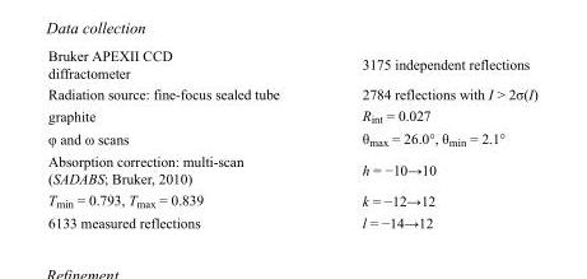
<table><tbody><tr><td>Bruker APEXII CCD diffractometer</td><td>3175 independent reflections</td></tr><tr><td>Radiation source: fine-focus sealed tube</td><td>2784 reflections with I &gt; 2σ(I)</td></tr><tr><td>graphite</td><td>R<sub>int</sub> = 0.027</td></tr><tr><td>φ and ω scans</td><td>θ<sub>max</sub> = 26.0°, θ<sub>min</sub> = 2.1°</td></tr><tr><td>Absorption correction: multi-scan (SADABS; Bruker, 2010)</td><td>h = −10→10</td></tr><tr><td>T<sub>min</sub> = 0.793, T<sub>max</sub> = 0.839</td><td>k = −12→12</td></tr><tr><td>6133 measured reflections</td><td>l = −14→12</td></tr></tbody></table>